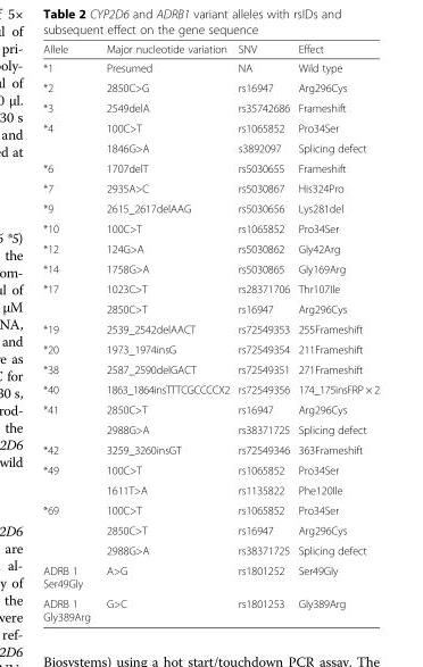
<table><thead><tr><td>Allele</td><td>Major nucleotide variation</td><td>SNV</td><td>Effect</td></tr></thead><tbody><tr><td>*1</td><td>Presumed</td><td>NA</td><td>Wild type</td></tr><tr><td>*2</td><td>2850C&gt;G</td><td>rs16947</td><td>Arg296Cys</td></tr><tr><td>*3</td><td>2549delA</td><td>rs35742686</td><td>Frameshift</td></tr><tr><td rowspan="2">*4</td><td>100C&gt;T</td><td>rs1065852</td><td>Pro34Ser</td></tr><tr><td>1846G&gt;A</td><td>s3892097</td><td>Splicing defect</td></tr><tr><td>*6</td><td>1707delT</td><td>rs5030655</td><td>Frameshift</td></tr><tr><td>*7</td><td>2935A&gt;C</td><td>rs5030867</td><td>His324Pro</td></tr><tr><td>*9</td><td>2615_2617delAAG</td><td>rs5030656</td><td>Lys281del</td></tr><tr><td>*10</td><td>100C&gt;T</td><td>rs1065852</td><td>Pro34Ser</td></tr><tr><td>*12</td><td>124G&gt;A</td><td>rs5030862</td><td>Gly42Arg</td></tr><tr><td>*14</td><td>1758G&gt;A</td><td>rs5030865</td><td>Gly169Arg</td></tr><tr><td rowspan="2">*17</td><td>1023C&gt;T</td><td>rs28371706</td><td>Thr107Ile</td></tr><tr><td>2850C&gt;T</td><td>rs16947</td><td>Arg296Cys</td></tr><tr><td>*19</td><td>2539_2542delAACT</td><td>rs72549353</td><td>255Frameshift</td></tr><tr><td>*20</td><td>1973_1974insG</td><td>rs72549354</td><td>211Frameshift</td></tr><tr><td>*38</td><td>2587_2590delGACT</td><td>rs72549351</td><td>271Frameshift</td></tr><tr><td>*40</td><td>1863_1864insTTTCGCCCCX2</td><td>rs72549356</td><td>174_175insFRP × 2</td></tr><tr><td rowspan="2">*41</td><td>2850C&gt;T</td><td>rs16947</td><td>Arg296Cys</td></tr><tr><td>2988G&gt;A</td><td>rs38371725</td><td>Splicing defect</td></tr><tr><td>*42</td><td>3259_3260insGT</td><td>rs72549346</td><td>363Frameshift</td></tr><tr><td rowspan="2">*49</td><td>100C&gt;T</td><td>rs1065852</td><td>Pro34Ser</td></tr><tr><td>1611T&gt;A</td><td>rs1135822</td><td>Phe120Ile</td></tr><tr><td rowspan="3">*69</td><td>100C&gt;T</td><td>rs1065852</td><td>Pro34Ser</td></tr><tr><td>2850C&gt;T</td><td>rs16947</td><td>Arg296Cys</td></tr><tr><td>2988G&gt;A</td><td>rs38371725</td><td>Splicing defect</td></tr><tr><td>ADRB 1 Ser49Gly</td><td>A&gt;G</td><td>rs1801252</td><td>Ser49Gly</td></tr><tr><td>ADRB 1 Gly389Arg</td><td>G&gt;C</td><td>rs1801253</td><td>Gly389Arg</td></tr></tbody></table>